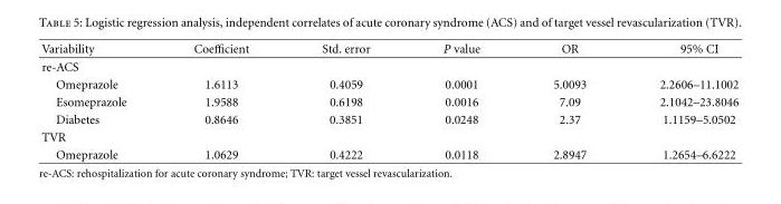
<table><thead><tr><td>Variability</td><td>Coefficient</td><td>Std. error</td><td>P value</td><td>OR</td><td>95% CI</td></tr></thead><tbody><tr><td colspan="6">re-ACS</td></tr><tr><td>Omeprazole</td><td>1.6113</td><td>0.4059</td><td>0.0001</td><td>5.0093</td><td>2.2606–11.1002</td></tr><tr><td>Esomeprazole</td><td>1.9588</td><td>0.6198</td><td>0.0016</td><td>7.09</td><td>2.1042–23.8046</td></tr><tr><td>Diabetes</td><td>0.8646</td><td>0.3851</td><td>0.0248</td><td>2.37</td><td>1.1159–5.0502</td></tr><tr><td colspan="6">TVR</td></tr><tr><td>Omeprazole</td><td>1.0629</td><td>0.4222</td><td>0.0118</td><td>2.8947</td><td>1.2654–6.6222</td></tr></tbody></table>